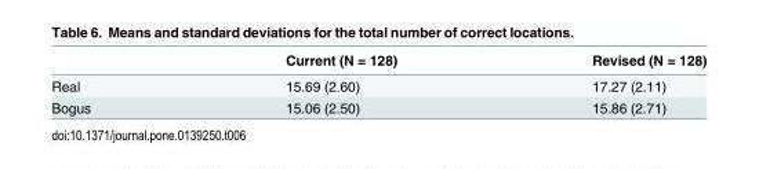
<table><thead><tr><td></td><td>Current (N = 128)</td><td>Revised (N = 128)</td></tr></thead><tbody><tr><td>Real</td><td>15.69 (2.60)</td><td>17.27 (2.11)</td></tr><tr><td>Bogus</td><td>15.06 (2.50)</td><td>15.86 (2.71)</td></tr></tbody></table>